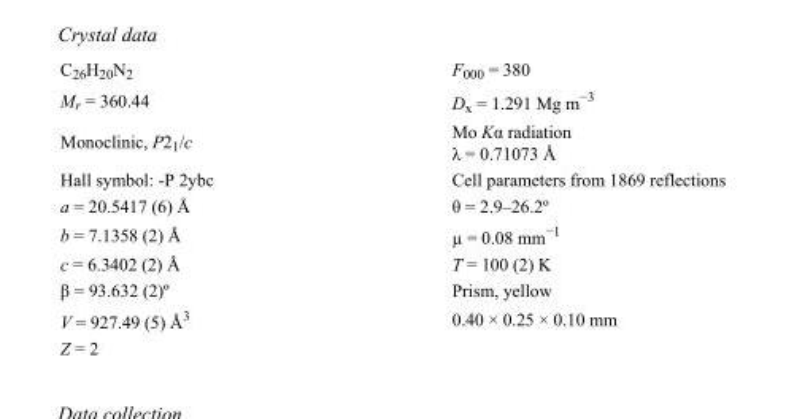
<table><tbody><tr><td>C<sub>26</sub>H<sub>20</sub>N<sub>2</sub></td><td>F<sub>000</sub> = 380</td></tr><tr><td>M<sub>r</sub> = 360.44</td><td>D<sub>x</sub> = 1.291 Mg m<sup>−3</sup></td></tr><tr><td>Monoclinic, P2<sub>1</sub>/c</td><td>Mo Kα radiation λ = 0.71073 Å</td></tr><tr><td>Hall symbol: -P 2ybc</td><td>Cell parameters from 1869 reflections</td></tr><tr><td>a = 20.5417 (6) Å</td><td>θ = 2.9–26.2º</td></tr><tr><td>b = 7.1358 (2) Å</td><td>µ = 0.08 mm<sup>−1</sup></td></tr><tr><td>c = 6.3402 (2) Å</td><td>T = 100 (2) K</td></tr><tr><td>β = 93.632 (2)º</td><td>Prism, yellow</td></tr><tr><td>V = 927.49 (5) Å<sup>3</sup></td><td>0.40 × 0.25 × 0.10 mm</td></tr><tr><td>Z = 2</td><td></td></tr></tbody></table>